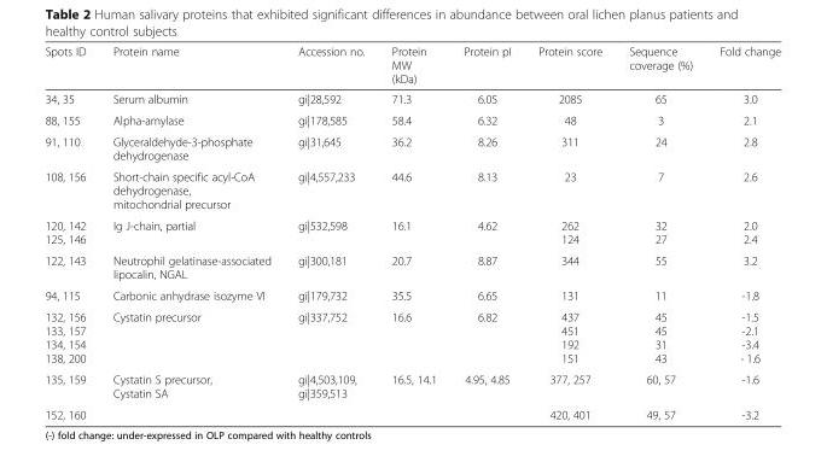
<table><thead><tr><td>Spots ID</td><td>Protein name</td><td>Accession no.</td><td>Protein MW (kDa)</td><td>Protein pI</td><td>Protein score</td><td>Sequence coverage (%)</td><td>Fold change</td></tr></thead><tbody><tr><td>34, 35</td><td>Serum albumin</td><td>gi|28,592</td><td>71.3</td><td>6.05</td><td>2085</td><td>65</td><td>3.0</td></tr><tr><td>88, 155</td><td>Alpha-amylase</td><td>gi|178,585</td><td>58.4</td><td>6.32</td><td>48</td><td>3</td><td>2.1</td></tr><tr><td>91, 110</td><td>Glyceraldehyde-3-phosphate dehydrogenase</td><td>gi|31,645</td><td>36.2</td><td>8.26</td><td>311</td><td>24</td><td>2.8</td></tr><tr><td>108, 156</td><td>Short-chain specific acyl-CoA dehydrogenase, mitochondrial precursor</td><td>gi|4,557,233</td><td>44.6</td><td>8.13</td><td>23</td><td>7</td><td>2.6</td></tr><tr><td>120, 142 125, 146</td><td>Ig J-chain, partial</td><td>gi|532,598</td><td>16.1</td><td>4.62</td><td>262 124</td><td>32 27</td><td>2.0 2.4</td></tr><tr><td>122, 143</td><td>Neutrophil gelatinase-associated lipocalin, NGAL</td><td>gi|300,181</td><td>20.7</td><td>8.87</td><td>344</td><td>55</td><td>3.2</td></tr><tr><td>94, 115</td><td>Carbonic anhydrase isozyme VI</td><td>gi|179,732</td><td>35.5</td><td>6.65</td><td>131</td><td>11</td><td>-1.8</td></tr><tr><td>132, 156 133, 157 134, 154 138, 200</td><td>Cystatin precursor</td><td>gi|337,752</td><td>16.6</td><td>6.82</td><td>437 451 192 151</td><td>45 45 31 43</td><td>-1.5 -2.1 -3.4 - 1.6</td></tr><tr><td>135, 159</td><td>Cystatin S precursor, Cystatin SA</td><td>gi|4,503,109, gi|359,513</td><td>16.5, 14.1</td><td>4.95, 4.85</td><td>377, 257</td><td>60, 57</td><td>-1.6</td></tr><tr><td>152, 160</td><td></td><td></td><td></td><td></td><td>420, 401</td><td>49, 57</td><td>-3.2</td></tr></tbody></table>